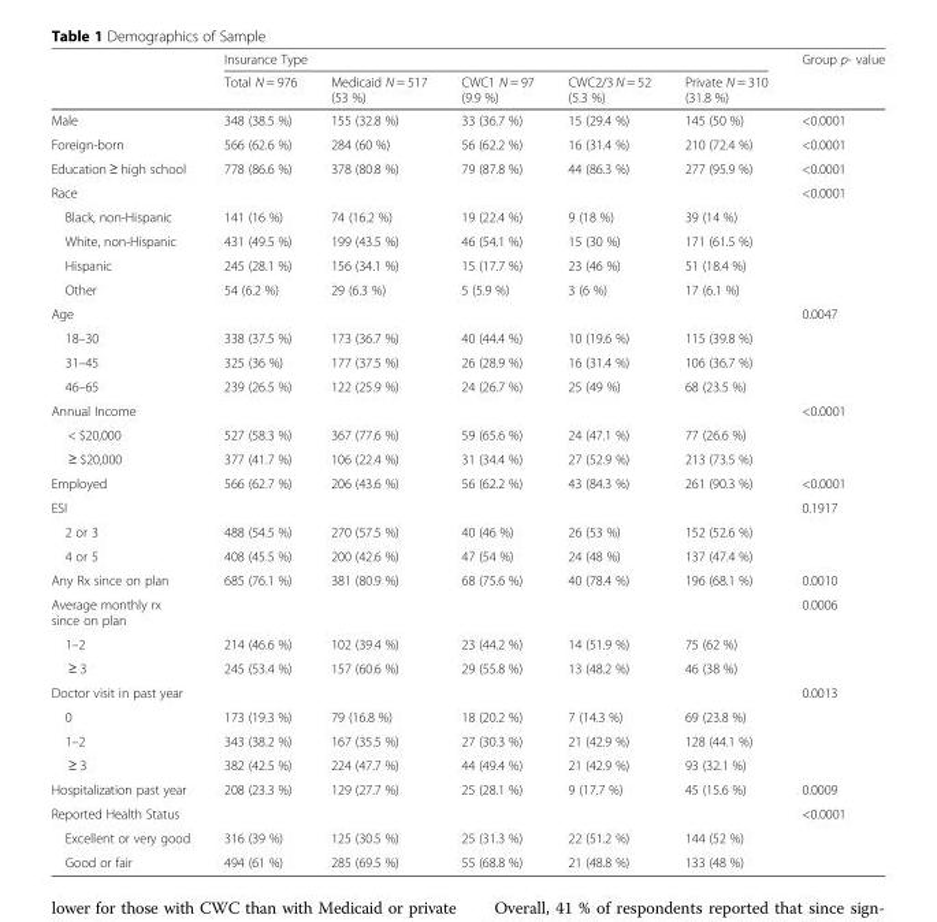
<table><thead><tr><td rowspan="2"></td><td colspan="5">Insurance Type</td><td rowspan="2">Group p- value</td></tr><tr><td>Total N = 976</td><td>Medicaid N = 517 (53 %)</td><td>CWC1 N = 97 (9.9 %)</td><td>CWC2/3 N = 52 (5.3 %)</td><td>Private N = 310 (31.8 %)</td></tr></thead><tbody><tr><td>Male</td><td>348 (38.5 %)</td><td>155 (32.8 %)</td><td>33 (36.7 %)</td><td>15 (29.4 %)</td><td>145 (50 %)</td><td>&lt;0.0001</td></tr><tr><td>Foreign-born</td><td>566 (62.6 %)</td><td>284 (60 %)</td><td>56 (62.2 %)</td><td>16 (31.4 %)</td><td>210 (72.4 %)</td><td>&lt;0.0001</td></tr><tr><td>Education ≥ high school</td><td>778 (86.6 %)</td><td>378 (80.8 %)</td><td>79 (87.8 %)</td><td>44 (86.3 %)</td><td>277 (95.9 %)</td><td>&lt;0.0001</td></tr><tr><td>Race</td><td></td><td></td><td></td><td></td><td></td><td>&lt;0.0001</td></tr><tr><td>Black, non-Hispanic</td><td>141 (16 %)</td><td>74 (16.2 %)</td><td>19 (22.4 %)</td><td>9 (18 %)</td><td>39 (14 %)</td><td></td></tr><tr><td>White, non-Hispanic</td><td>431 (49.5 %)</td><td>199 (43.5 %)</td><td>46 (54.1 %)</td><td>15 (30 %)</td><td>171 (61.5 %)</td><td></td></tr><tr><td>Hispanic</td><td>245 (28.1 %)</td><td>156 (34.1 %)</td><td>15 (17.7 %)</td><td>23 (46 %)</td><td>51 (18.4 %)</td><td></td></tr><tr><td>Other</td><td>54 (6.2 %)</td><td>29 (6.3 %)</td><td>5 (5.9 %)</td><td>3 (6 %)</td><td>17 (6.1 %)</td><td></td></tr><tr><td>Age</td><td></td><td></td><td></td><td></td><td></td><td>0.0047</td></tr><tr><td>18–30</td><td>338 (37.5 %)</td><td>173 (36.7 %)</td><td>40 (44.4 %)</td><td>10 (19.6 %)</td><td>115 (39.8 %)</td><td></td></tr><tr><td>31–45</td><td>325 (36 %)</td><td>177 (37.5 %)</td><td>26 (28.9 %)</td><td>16 (31.4 %)</td><td>106 (36.7 %)</td><td></td></tr><tr><td>46–65</td><td>239 (26.5 %)</td><td>122 (25.9 %)</td><td>24 (26.7 %)</td><td>25 (49 %)</td><td>68 (23.5 %)</td><td></td></tr><tr><td>Annual Income</td><td></td><td></td><td></td><td></td><td></td><td>&lt;0.0001</td></tr><tr><td>&lt; $20,000</td><td>527 (58.3 %)</td><td>367 (77.6 %)</td><td>59 (65.6 %)</td><td>24 (47.1 %)</td><td>77 (26.6 %)</td><td></td></tr><tr><td>≥ $20,000</td><td>377 (41.7 %)</td><td>106 (22.4 %)</td><td>31 (34.4 %)</td><td>27 (52.9 %)</td><td>213 (73.5 %)</td><td></td></tr><tr><td>Employed</td><td>566 (62.7 %)</td><td>206 (43.6 %)</td><td>56 (62.2 %)</td><td>43 (84.3 %)</td><td>261 (90.3 %)</td><td>&lt;0.0001</td></tr><tr><td>ESI</td><td></td><td></td><td></td><td></td><td></td><td>0.1917</td></tr><tr><td>2 or 3</td><td>488 (54.5 %)</td><td>270 (57.5 %)</td><td>40 (46 %)</td><td>26 (53 %)</td><td>152 (52.6 %)</td><td></td></tr><tr><td>4 or 5</td><td>408 (45.5 %)</td><td>200 (42.6 %)</td><td>47 (54 %)</td><td>24 (48 %)</td><td>137 (47.4 %)</td><td></td></tr><tr><td>Any Rx since on plan</td><td>685 (76.1 %)</td><td>381 (80.9 %)</td><td>68 (75.6 %)</td><td>40 (78.4 %)</td><td>196 (68.1 %)</td><td>0.0010</td></tr><tr><td>Average monthly rx since on plan</td><td></td><td></td><td></td><td></td><td></td><td>0.0006</td></tr><tr><td>1–2</td><td>214 (46.6 %)</td><td>102 (39.4 %)</td><td>23 (44.2 %)</td><td>14 (51.9 %)</td><td>75 (62 %)</td><td></td></tr><tr><td>≥ 3</td><td>245 (53.4 %)</td><td>157 (60.6 %)</td><td>29 (55.8 %)</td><td>13 (48.2 %)</td><td>46 (38 %)</td><td></td></tr><tr><td>Doctor visit in past year</td><td></td><td></td><td></td><td></td><td></td><td>0.0013</td></tr><tr><td>0</td><td>173 (19.3 %)</td><td>79 (16.8 %)</td><td>18 (20.2 %)</td><td>7 (14.3 %)</td><td>69 (23.8 %)</td><td></td></tr><tr><td>1–2</td><td>343 (38.2 %)</td><td>167 (35.5 %)</td><td>27 (30.3 %)</td><td>21 (42.9 %)</td><td>128 (44.1 %)</td><td></td></tr><tr><td>≥ 3</td><td>382 (42.5 %)</td><td>224 (47.7 %)</td><td>44 (49.4 %)</td><td>21 (42.9 %)</td><td>93 (32.1 %)</td><td></td></tr><tr><td>Hospitalization past year</td><td>208 (23.3 %)</td><td>129 (27.7 %)</td><td>25 (28.1 %)</td><td>9 (17.7 %)</td><td>45 (15.6 %)</td><td>0.0009</td></tr><tr><td>Reported Health Status</td><td></td><td></td><td></td><td></td><td></td><td>&lt;0.0001</td></tr><tr><td>Excellent or very good</td><td>316 (39 %)</td><td>125 (30.5 %)</td><td>25 (31.3 %)</td><td>22 (51.2 %)</td><td>144 (52 %)</td><td></td></tr><tr><td>Good or fair</td><td>494 (61 %)</td><td>285 (69.5 %)</td><td>55 (68.8 %)</td><td>21 (48.8 %)</td><td>133 (48 %)</td><td></td></tr></tbody></table>